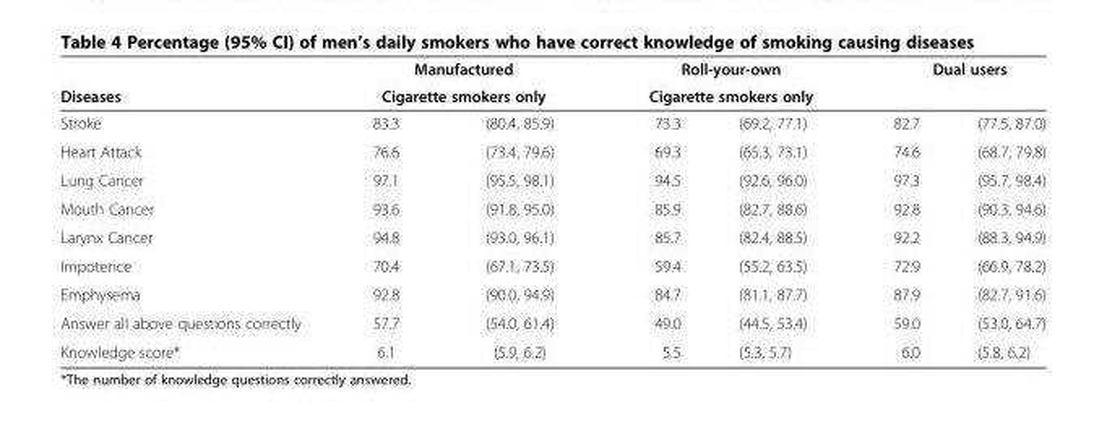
<table><thead><tr><td rowspan="3">Diseases Stroke</td><td rowspan="2" colspan="2">Manufactured Cigarette smokers only</td><td rowspan="2" colspan="2">Roll-your-own Cigarette smokers only</td><td colspan="2">Dual users</td></tr><tr><td rowspan="2">82.7</td><td rowspan="2">(77.5, 87.0)</td></tr><tr><td>83.3</td><td>(80.4, 85.9)</td><td>73.3</td><td>(69.2, 77.1)</td></tr></thead><tbody><tr><td>Heart Attack</td><td>76.6</td><td>(73.4, 79.6)</td><td>69.3</td><td>(65.3, 73.1)</td><td>74.6</td><td>(68.7, 79.8)</td></tr><tr><td>Lung Cancer</td><td>97.1</td><td>(95.5, 98.1)</td><td>94.5</td><td>(92.6, 96.0)</td><td>97.3</td><td>(95.7, 98.4)</td></tr><tr><td>Mouth Cancer</td><td>93.6</td><td>(91.8, 95.0)</td><td>85.9</td><td>(82.7, 88.6)</td><td>92.8</td><td>(90.3, 94.6)</td></tr><tr><td>Larynx Cancer</td><td>94.8</td><td>(93.0, 96.1)</td><td>85.7</td><td>(82.4, 88.5)</td><td>92.2</td><td>(88.3, 94.9)</td></tr><tr><td>Impotence</td><td>70.4</td><td>(67.1, 73.5)</td><td>59.4</td><td>(55.2, 63.5)</td><td>72.9</td><td>(66.9, 78.2)</td></tr><tr><td>Emphysema</td><td>92.8</td><td>(90.0, 94.9)</td><td>84.7</td><td>(81.1, 87.7)</td><td>87.9</td><td>(82.7, 91.6)</td></tr><tr><td>Answer all above questions correctly</td><td>57.7</td><td>(54.0, 61.4)</td><td>49.0</td><td>(44.5, 53.4)</td><td>59.0</td><td>(53.0, 64.7)</td></tr><tr><td>Knowledge score*</td><td>6.1</td><td>(5.9, 6.2)</td><td>5.5</td><td>(5.3, 5.7)</td><td>6.0</td><td>(5.8, 6.2)</td></tr></tbody></table>